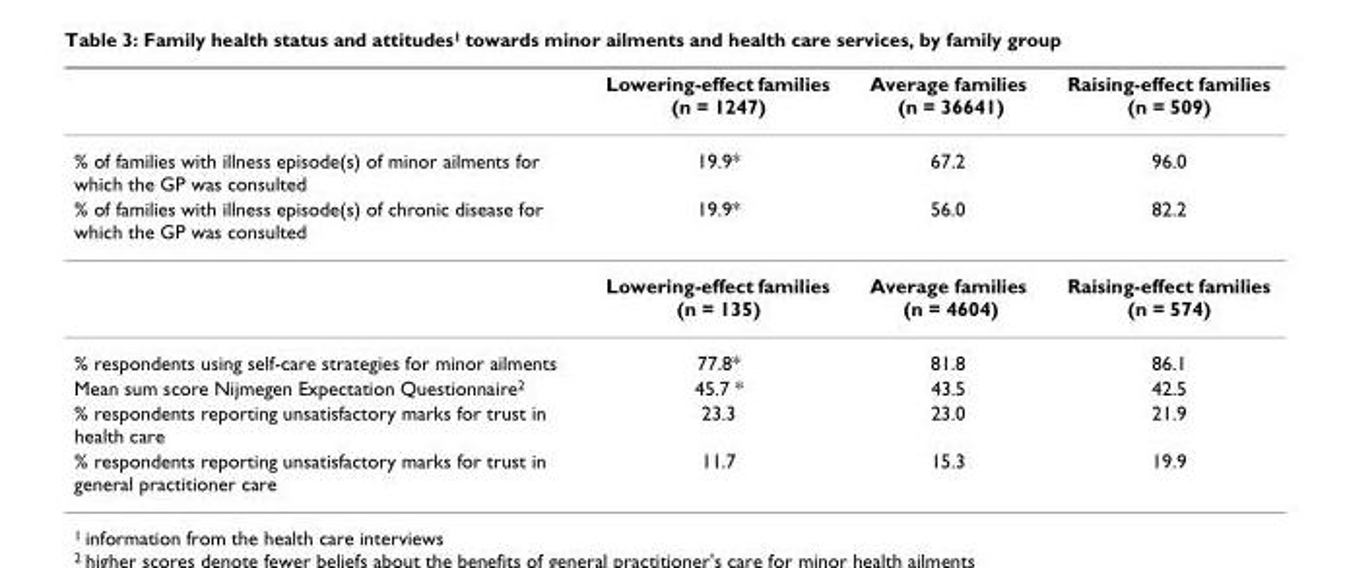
<table><thead><tr><td></td><td>Lowering-effect families (n = 1247)</td><td>Average families (n = 36641)</td><td>Raising-effect families (n = 509)</td></tr></thead><tbody><tr><td>% of families with illness episode(s) of minor ailments for which the GP was consulted</td><td>19.9*</td><td>67.2</td><td>96.0</td></tr><tr><td rowspan="2">% of families with illness episode(s) of chronic disease for which the GP was consulted</td><td>19.9*</td><td>56.0</td><td>82.2</td></tr><tr><td>Lowering-effect families (n = 135)</td><td>Average families (n = 4604)</td><td>Raising-effect families (n = 574)</td></tr><tr><td>% respondents using self-care strategies for minor ailments</td><td>77.8*</td><td>81.8</td><td>86.1</td></tr><tr><td>Mean sum score Nijmegen Expectation Questionnaire<sup>2</sup></td><td>45.7 *</td><td>43.5</td><td>42.5</td></tr><tr><td>% respondents reporting unsatisfactory marks for trust in health care</td><td>23.3</td><td>23.0</td><td>21.9</td></tr><tr><td>% respondents reporting unsatisfactory marks for trust in general practitioner care</td><td>11.7</td><td>15.3</td><td>19.9</td></tr></tbody></table>